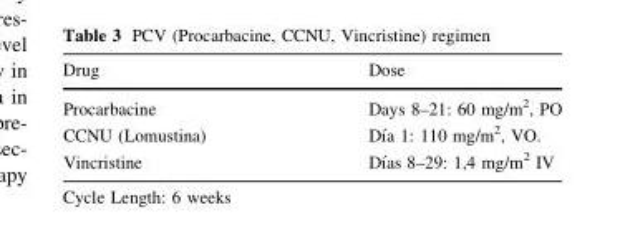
<table><thead><tr><td>Drug</td><td>Dose</td></tr></thead><tbody><tr><td>Procarbacine</td><td>Days 8–21: 60 mg/m<sup>2</sup>, PO</td></tr><tr><td>CCNU (Lomustina)</td><td>Dı´a 1: 110 mg/m2, VO.</td></tr><tr><td>Vincristine</td><td>Dı´as 8–29: 1,4 mg/m2 IV</td></tr></tbody></table>